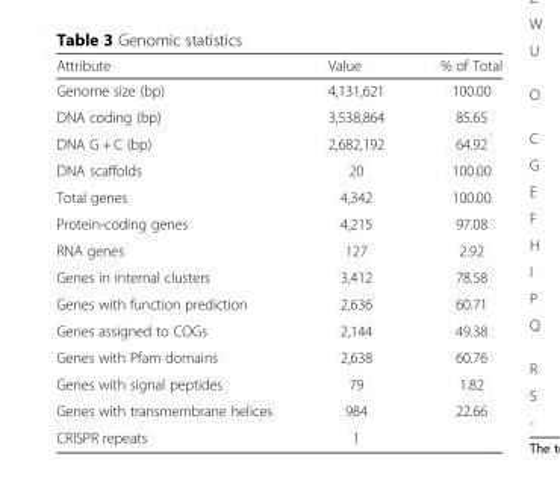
<table><thead><tr><td>Attribute</td><td>Value</td><td>% of Total</td></tr></thead><tbody><tr><td>Genome size (bp)</td><td>4,131,621</td><td>100.00</td></tr><tr><td>DNA coding (bp)</td><td>3,538,864</td><td>85.65</td></tr><tr><td>DNA G + C (bp)</td><td>2,682,192</td><td>64.92</td></tr><tr><td>DNA scaffolds</td><td>20</td><td>100.00</td></tr><tr><td>Total genes</td><td>4,342</td><td>100.00</td></tr><tr><td>Protein-coding genes</td><td>4,215</td><td>97.08</td></tr><tr><td>RNA genes</td><td>127</td><td>2.92</td></tr><tr><td>Genes in internal clusters</td><td>3,412</td><td>78.58</td></tr><tr><td>Genes with function prediction</td><td>2,636</td><td>60.71</td></tr><tr><td>Genes assigned to COGs</td><td>2,144</td><td>49.38</td></tr><tr><td>Genes with Pfam domains</td><td>2,638</td><td>60.76</td></tr><tr><td>Genes with signal peptides</td><td>79</td><td>1.82</td></tr><tr><td>Genes with transmembrane helices</td><td>984</td><td>22.66</td></tr><tr><td>CRISPR repeats</td><td>1</td><td></td></tr></tbody></table>